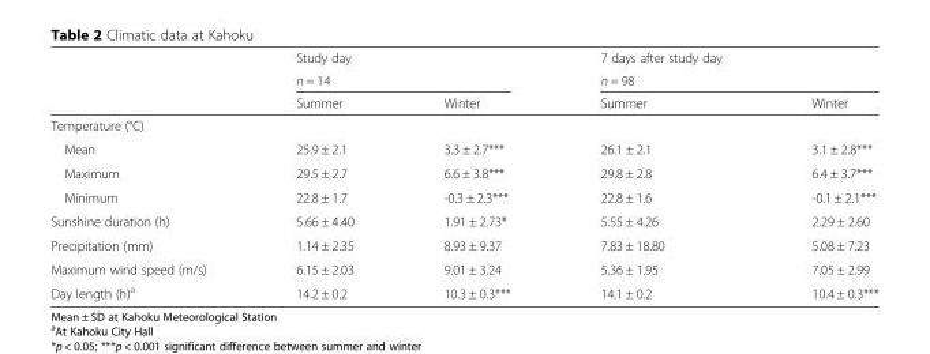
<table><thead><tr><td rowspan="3"></td><td>Study day</td><td></td><td>7 days after study day</td><td></td></tr><tr><td colspan="2">n = 14</td><td colspan="2">n = 98</td></tr><tr><td>Summer</td><td>Winter</td><td>Summer</td><td>Winter</td></tr></thead><tbody><tr><td colspan="5">Temperature (°C)</td></tr><tr><td>Mean</td><td>25.9 ± 2.1</td><td>3.3 ± 2.7***</td><td>26.1 ± 2.1</td><td>3.1 ± 2.8***</td></tr><tr><td>Maximum</td><td>29.5 ± 2.7</td><td>6.6 ± 3.8***</td><td>29.8 ± 2.8</td><td>6.4 ± 3.7***</td></tr><tr><td>Minimum</td><td>22.8 ± 1.7</td><td>-0.3 ± 2.3***</td><td>22.8 ± 1.6</td><td>-0.1 ± 2.1***</td></tr><tr><td>Sunshine duration (h)</td><td>5.66 ± 4.40</td><td>1.91 ± 2.73*</td><td>5.55 ± 4.26</td><td>2.29 ± 2.60</td></tr><tr><td>Precipitation (mm)</td><td>1.14 ± 2.35</td><td>8.93 ± 9.37</td><td>7.83 ± 18.80</td><td>5.08 ± 7.23</td></tr><tr><td>Maximum wind speed (m/s)</td><td>6.15 ± 2.03</td><td>9.01 ± 3.24</td><td>5.36 ± 1.95</td><td>7.05 ± 2.99</td></tr><tr><td>Day length (h)<sup>a</sup></td><td>14.2 ± 0.2</td><td>10.3 ± 0.3***</td><td>14.1 ± 0.2</td><td>10.4 ± 0.3***</td></tr></tbody></table>